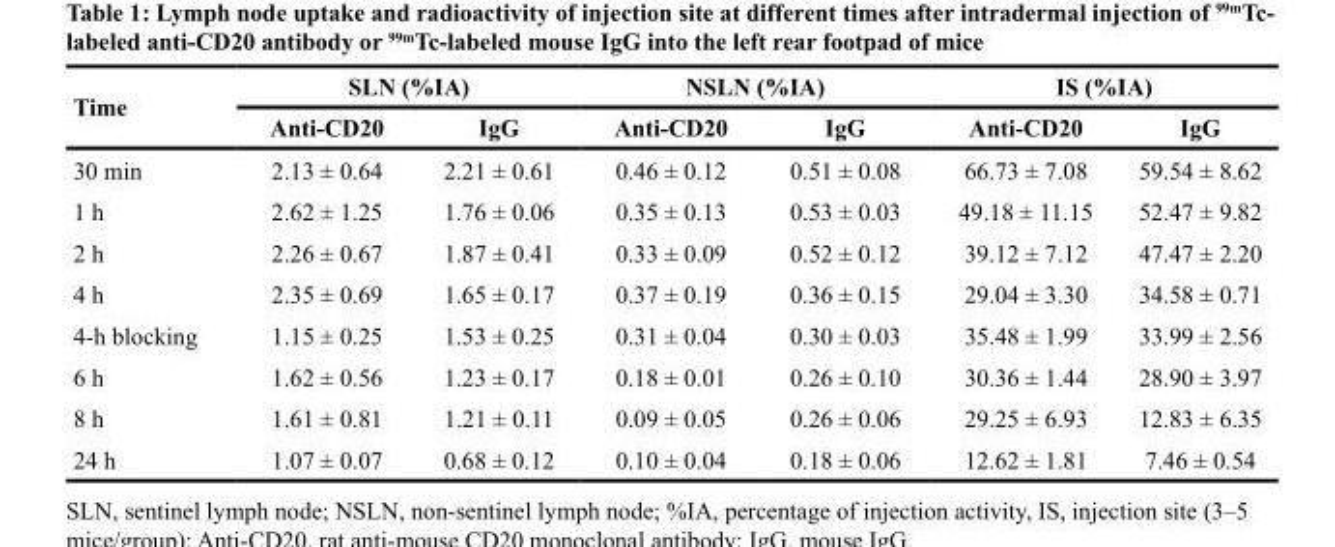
<table><thead><tr><td rowspan="2">Time</td><td colspan="2">SLN (%IA)</td><td colspan="2">NSLN (%IA)</td><td colspan="2">IS (%IA)</td></tr><tr><td>Anti-CD20</td><td>IgG</td><td>Anti-CD20</td><td>IgG</td><td>Anti-CD20</td><td>IgG</td></tr></thead><tbody><tr><td>30 min</td><td>2.13 ± 0.64</td><td>2.21 ± 0.61</td><td>0.46 ± 0.12</td><td>0.51 ± 0.08</td><td>66.73 ± 7.08</td><td>59.54 ± 8.62</td></tr><tr><td>1 h</td><td>2.62 ± 1.25</td><td>1.76 ± 0.06</td><td>0.35 ± 0.13</td><td>0.53 ± 0.03</td><td>49.18 ± 11.15</td><td>52.47 ± 9.82</td></tr><tr><td>2 h</td><td>2.26 ± 0.67</td><td>1.87 ± 0.41</td><td>0.33 ± 0.09</td><td>0.52 ± 0.12</td><td>39.12 ± 7.12</td><td>47.47 ± 2.20</td></tr><tr><td>4 h</td><td>2.35 ± 0.69</td><td>1.65 ± 0.17</td><td>0.37 ± 0.19</td><td>0.36 ± 0.15</td><td>29.04 ± 3.30</td><td>34.58 ± 0.71</td></tr><tr><td>4-h blocking</td><td>1.15 ± 0.25</td><td>1.53 ± 0.25</td><td>0.31 ± 0.04</td><td>0.30 ± 0.03</td><td>35.48 ± 1.99</td><td>33.99 ± 2.56</td></tr><tr><td>6 h</td><td>1.62 ± 0.56</td><td>1.23 ± 0.17</td><td>0.18 ± 0.01</td><td>0.26 ± 0.10</td><td>30.36 ± 1.44</td><td>28.90 ± 3.97</td></tr><tr><td>8 h</td><td>1.61 ± 0.81</td><td>1.21 ± 0.11</td><td>0.09 ± 0.05</td><td>0.26 ± 0.06</td><td>29.25 ± 6.93</td><td>12.83 ± 6.35</td></tr><tr><td>24 h</td><td>1.07 ± 0.07</td><td>0.68 ± 0.12</td><td>0.10 ± 0.04</td><td>0.18 ± 0.06</td><td>12.62 ± 1.81</td><td>7.46 ± 0.54</td></tr></tbody></table>